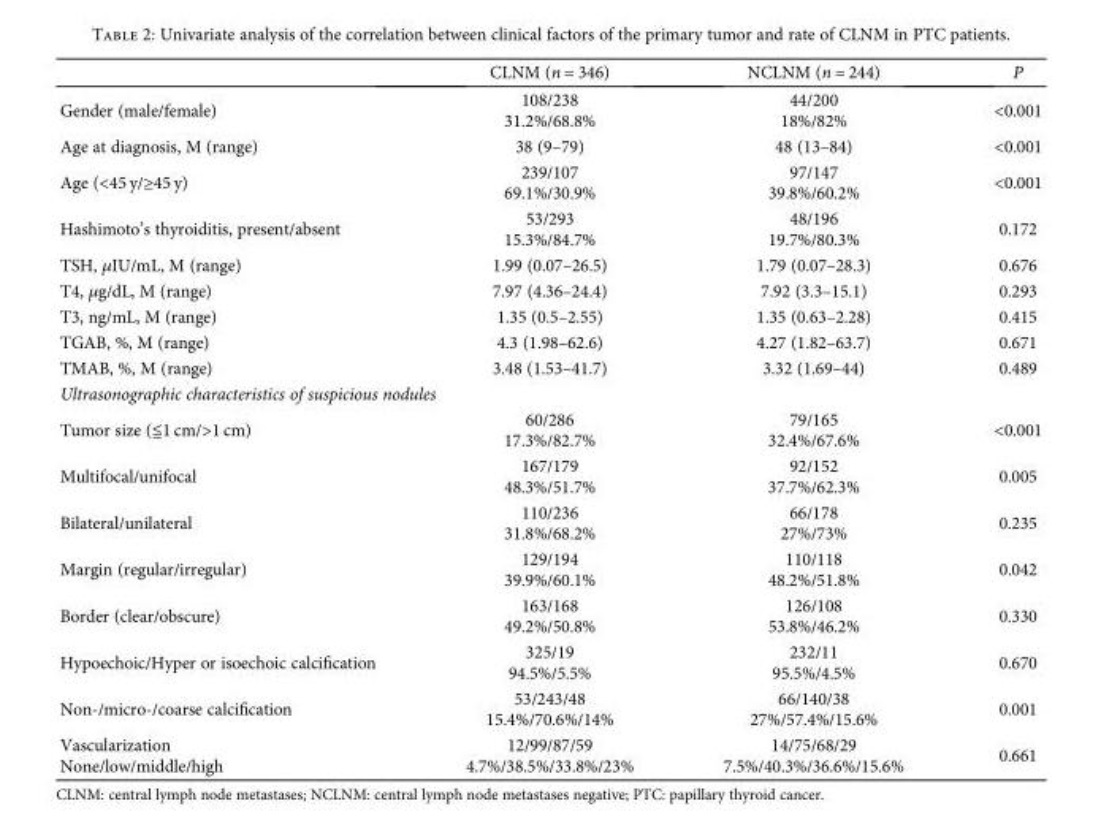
<table><thead><tr><td></td><td>CLNM (n = 346)</td><td>NCLNM (n = 244)</td><td>P</td></tr></thead><tbody><tr><td>Gender (male/female)</td><td>108/238 31.2%/68.8%</td><td>44/200 18%/82%</td><td>&lt;0.001</td></tr><tr><td>Age at diagnosis, M (range)</td><td>38 (9–79)</td><td>48 (13–84)</td><td>&lt;0.001</td></tr><tr><td>Age (&lt;45 y/≥45 y)</td><td>239/107 69.1%/30.9%</td><td>97/147 39.8%/60.2%</td><td>&lt;0.001</td></tr><tr><td>Hashimoto’s thyroiditis, present/absent</td><td>53/293 15.3%/84.7%</td><td>48/196 19.7%/80.3%</td><td>0.172</td></tr><tr><td>TSH, μIU/mL, M (range)</td><td>1.99 (0.07–26.5)</td><td>1.79 (0.07–28.3)</td><td>0.676</td></tr><tr><td>T4, μg/dL, M (range)</td><td>7.97 (4.36–24.4)</td><td>7.92 (3.3–15.1)</td><td>0.293</td></tr><tr><td>T3, ng/mL, M (range)</td><td>1.35 (0.5–2.55)</td><td>1.35 (0.63–2.28)</td><td>0.415</td></tr><tr><td>TGAB, %, M (range)</td><td>4.3 (1.98–62.6)</td><td>4.27 (1.82–63.7)</td><td>0.671</td></tr><tr><td>TMAB, %, M (range)</td><td>3.48 (1.53–41.7)</td><td>3.32 (1.69–44)</td><td>0.489</td></tr><tr><td colspan="4">Ultrasonographic characteristics of suspicious nodules</td></tr><tr><td>Tumor size (≦1 cm/&gt;1 cm)</td><td>60/286 17.3%/82.7%</td><td>79/165 32.4%/67.6%</td><td>&lt;0.001</td></tr><tr><td>Multifocal/unifocal</td><td>167/179 48.3%/51.7%</td><td>92/152 37.7%/62.3%</td><td>0.005</td></tr><tr><td>Bilateral/unilateral</td><td>110/236 31.8%/68.2%</td><td>66/178 27%/73%</td><td>0.235</td></tr><tr><td>Margin (regular/irregular)</td><td>129/194 39.9%/60.1%</td><td>110/118 48.2%/51.8%</td><td>0.042</td></tr><tr><td>Border (clear/obscure)</td><td>163/168 49.2%/50.8%</td><td>126/108 53.8%/46.2%</td><td>0.330</td></tr><tr><td>Hypoechoic/Hyper or isoechoic calcification</td><td>325/19 94.5%/5.5%</td><td>232/11 95.5%/4.5%</td><td>0.670</td></tr><tr><td>Non-/micro-/coarse calcification</td><td>53/243/48 15.4%/70.6%/14%</td><td>66/140/38 27%/57.4%/15.6%</td><td>0.001</td></tr><tr><td>Vascularization None/low/middle/high</td><td>12/99/87/59 4.7%/38.5%/33.8%/23%</td><td>14/75/68/29 7.5%/40.3%/36.6%/15.6%</td><td>0.661</td></tr></tbody></table>